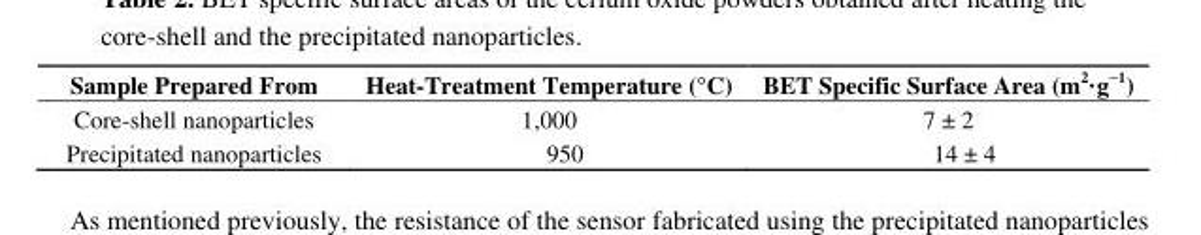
<table><thead><tr><td>Sample Prepared From</td><td>Heat-Treatment Temperature (°C)</td><td>BET Specific Surface Area (m<sup>2</sup>·g<sup>−1</sup>)</td></tr></thead><tbody><tr><td>Core-shell nanoparticles</td><td>1,000</td><td>7 ± 2</td></tr><tr><td>Precipitated nanoparticles</td><td>950</td><td>14 ± 4</td></tr></tbody></table>